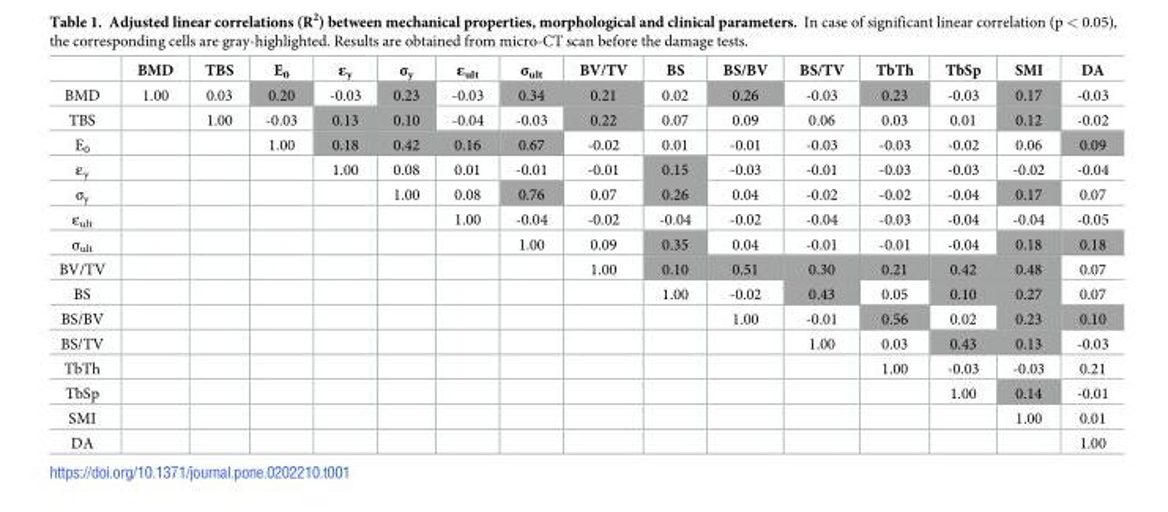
<table><thead><tr><td></td><td>BMD</td><td>TBS</td><td>E<sub>0</sub></td><td>ε<sub>y</sub></td><td>σ<sub>y</sub></td><td>ε<sub>ult</sub></td><td>σ<sub>ult</sub></td><td>BV/TV</td><td>BS</td><td>BS/BV</td><td>BS/TV</td><td>TbTh</td><td>TbSp</td><td>SMI</td><td>DA</td></tr></thead><tbody><tr><td>BMD</td><td>1.00</td><td>0.03</td><td>0.20</td><td>-0.03</td><td>0.23</td><td>-0.03</td><td>0.34</td><td>0.21</td><td>0.02</td><td>0.26</td><td>-0.03</td><td>0.23</td><td>-0.03</td><td>0.17</td><td>-0.03</td></tr><tr><td>TBS</td><td></td><td>1.00</td><td>-0.03</td><td>0.13</td><td>0.10</td><td>-0.04</td><td>-0.03</td><td>0.22</td><td>0.07</td><td>0.09</td><td>0.06</td><td>0.03</td><td>0.01</td><td>0.12</td><td>-0.02</td></tr><tr><td>E<sub>0</sub></td><td></td><td></td><td>1.00</td><td>0.18</td><td>0.42</td><td>0.16</td><td>0.67</td><td>-0.02</td><td>0.01</td><td>-0.01</td><td>-0.03</td><td>-0.03</td><td>-0.02</td><td>0.06</td><td>0.09</td></tr><tr><td>ε<sub>y</sub></td><td></td><td></td><td></td><td>1.00</td><td>0.08</td><td>0.01</td><td>-0.01</td><td>-0.01</td><td>0.15</td><td>-0.03</td><td>-0.01</td><td>-0.03</td><td>-0.03</td><td>-0.02</td><td>-0.04</td></tr><tr><td>σ<sub>y</sub></td><td></td><td></td><td></td><td></td><td>1.00</td><td>0.08</td><td>0.76</td><td>0.07</td><td>0.26</td><td>0.04</td><td>-0.02</td><td>-0.02</td><td>-0.04</td><td>0.17</td><td>0.07</td></tr><tr><td>ε<sub>ult</sub></td><td></td><td></td><td></td><td></td><td></td><td>1.00</td><td>-0.04</td><td>-0.02</td><td>-0.04</td><td>-0.02</td><td>-0.04</td><td>-0.03</td><td>-0.04</td><td>-0.04</td><td>-0.05</td></tr><tr><td>σ<sub>ult</sub></td><td></td><td></td><td></td><td></td><td></td><td></td><td>1.00</td><td>0.09</td><td>0.35</td><td>0.04</td><td>-0.01</td><td>-0.01</td><td>-0.04</td><td>0.18</td><td>0.18</td></tr><tr><td>BV/TV</td><td></td><td></td><td></td><td></td><td></td><td></td><td></td><td>1.00</td><td>0.10</td><td>0.51</td><td>0.30</td><td>0.21</td><td>0.42</td><td>0.48</td><td>0.07</td></tr><tr><td>BS</td><td></td><td></td><td></td><td></td><td></td><td></td><td></td><td></td><td>1.00</td><td>-0.02</td><td>0.43</td><td>0.05</td><td>0.10</td><td>0.27</td><td>0.07</td></tr><tr><td>BS/BV</td><td></td><td></td><td></td><td></td><td></td><td></td><td></td><td></td><td></td><td>1.00</td><td>-0.01</td><td>0.56</td><td>0.02</td><td>0.23</td><td>0.10</td></tr><tr><td>BS/TV</td><td></td><td></td><td></td><td></td><td></td><td></td><td></td><td></td><td></td><td></td><td>1.00</td><td>0.03</td><td>0.43</td><td>0.13</td><td>-0.03</td></tr><tr><td>TbTh</td><td></td><td></td><td></td><td></td><td></td><td></td><td></td><td></td><td></td><td></td><td></td><td>1.00</td><td>-0.03</td><td>-0.03</td><td>0.21</td></tr><tr><td>TbSp</td><td></td><td></td><td></td><td></td><td></td><td></td><td></td><td></td><td></td><td></td><td></td><td></td><td>1.00</td><td>0.14</td><td>-0.01</td></tr><tr><td>SMI</td><td></td><td></td><td></td><td></td><td></td><td></td><td></td><td></td><td></td><td></td><td></td><td></td><td></td><td>1.00</td><td>0.01</td></tr><tr><td>DA</td><td></td><td></td><td></td><td></td><td></td><td></td><td></td><td></td><td></td><td></td><td></td><td></td><td></td><td></td><td>1.00</td></tr></tbody></table>